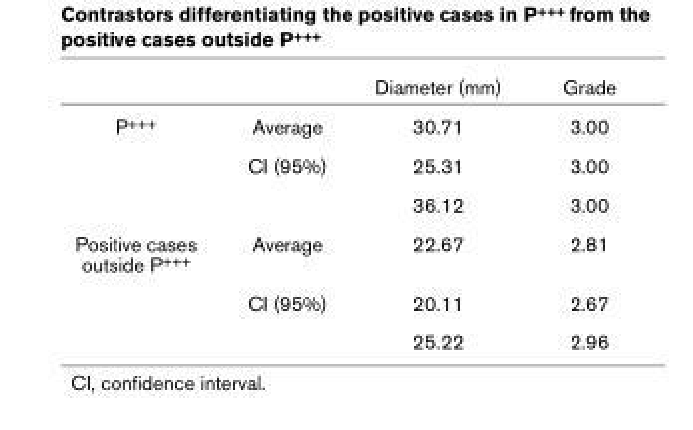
<table><thead><tr><td></td><td></td><td>Diameter (mm)</td><td>Grade</td></tr></thead><tbody><tr><td rowspan="3">P+++</td><td>Average</td><td>30.71</td><td>3.00</td></tr><tr><td>CI (95%)</td><td>25.31</td><td>3.00</td></tr><tr><td></td><td>36.12</td><td>3.00</td></tr><tr><td rowspan="3">Positive cases outside P+++</td><td>Average</td><td>22.67</td><td>2.81</td></tr><tr><td>CI (95%)</td><td>20.11</td><td>2.67</td></tr><tr><td></td><td>25.22</td><td>2.96</td></tr></tbody></table>